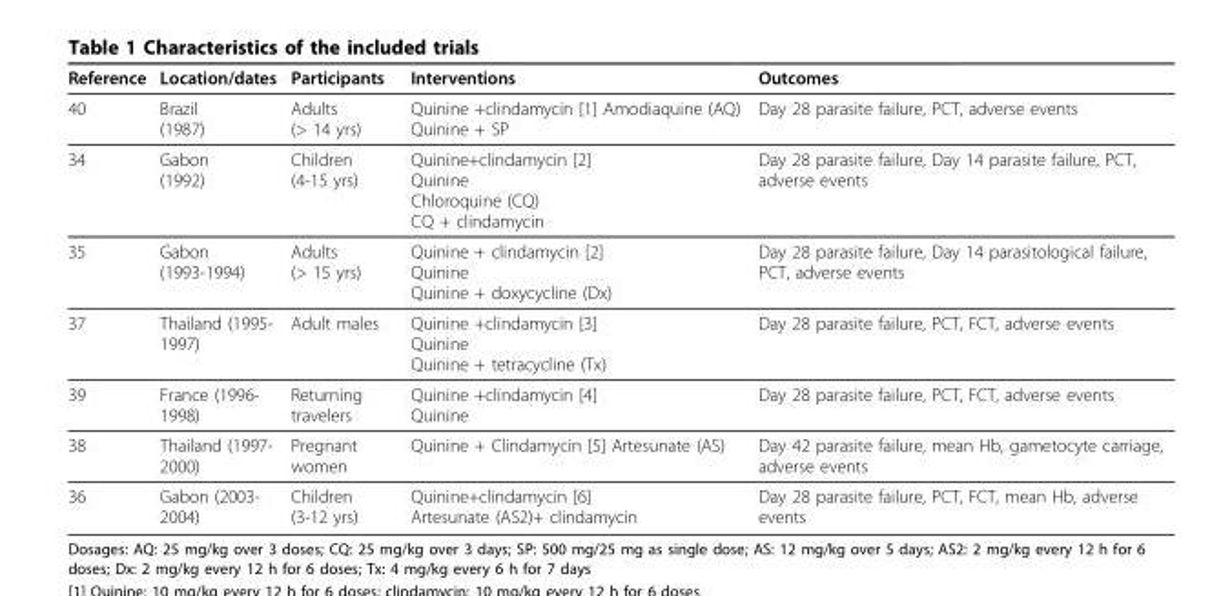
<table><thead><tr><td>Reference</td><td>Location/dates</td><td>Participants</td><td>Interventions</td><td>Outcomes</td></tr></thead><tbody><tr><td>40</td><td>Brazil (1987)</td><td>Adults (&gt; 14 yrs)</td><td>Quinine +clindamycin [1] Amodiaquine (AQ) Quinine + SP</td><td>Day 28 parasite failure, PCT, adverse events</td></tr><tr><td>34</td><td>Gabon (1992)</td><td>Children (4-15 yrs)</td><td>Quinine+clindamycin [2] Quinine Chloroquine (CQ) CQ + clindamycin</td><td>Day 28 parasite failure, Day 14 parasite failure, PCT, adverse events</td></tr><tr><td>35</td><td>Gabon (1993-1994)</td><td>Adults (&gt; 15 yrs)</td><td>Quinine + clindamycin [2] Quinine Quinine + doxycycline (Dx)</td><td>Day 28 parasite failure, Day 14 parasitological failure, PCT, adverse events</td></tr><tr><td>37</td><td>Thailand (1995- 1997)</td><td>Adult males</td><td>Quinine +clindamycin [3] Quinine Quinine + tetracycline (Tx)</td><td>Day 28 parasite failure, PCT, FCT, adverse events</td></tr><tr><td>39</td><td>France (1996- 1998)</td><td>Returning travelers</td><td>Quinine +clindamycin [4] Quinine</td><td>Day 28 parasite failure, PCT, FCT, adverse events</td></tr><tr><td>38</td><td>Thailand (1997- 2000)</td><td>Pregnant women</td><td>Quinine + Clindamycin [5] Artesunate (AS)</td><td>Day 42 parasite failure, mean Hb, gametocyte carriage, adverse events</td></tr><tr><td>36</td><td>Gabon (2003- 2004)</td><td>Children (3-12 yrs)</td><td>Quinine+clindamycin [6] Artesunate (AS2)+ clindamycin</td><td>Day 28 parasite failure, PCT, FCT, mean Hb, adverse events</td></tr></tbody></table>